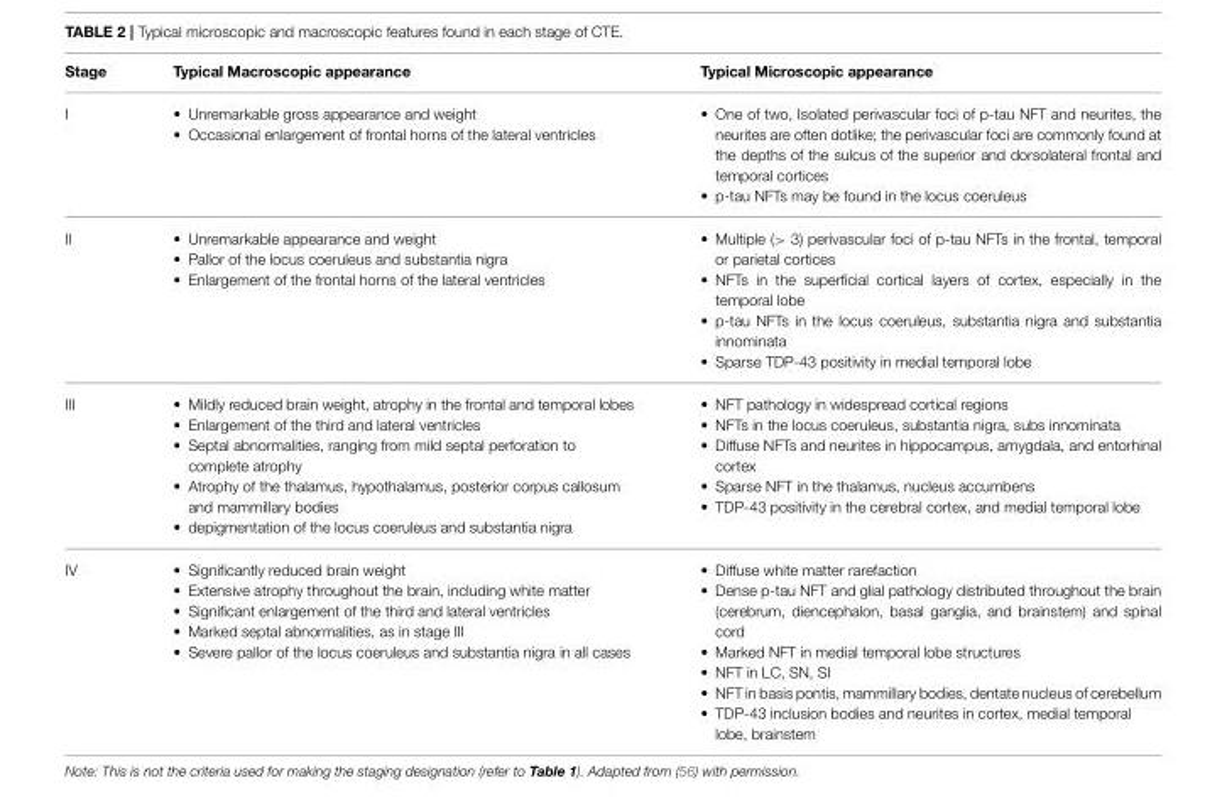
<table><thead><tr><td>Stage</td><td>Typical Macroscopic appearance</td><td>Typical Microscopic appearance</td></tr></thead><tbody><tr><td>I</td><td>• Unremarkable gross appearance and weight • Occasional enlargement of frontal horns of the lateral ventricles</td><td>• One of two, Isolated perivascular foci of p-tau NFT and neurites, the neurites are often dotlike; the perivascular foci are commonly found at the depths of the sulcus of the superior and dorsolateral frontal and temporal cortices • p-tau NFTs may be found in the locus coeruleus</td></tr><tr><td>II</td><td>• Unremarkable appearance and weight • Pallor of the locus coeruleus and substantia nigra • Enlargement of the frontal horns of the lateral ventricles</td><td>• Multiple (&gt; 3) perivascular foci of p-tau NFTs in the frontal, temporal or parietal cortices • NFTs in the superficial cortical layers of cortex, especially in the temporal lobe • p-tau NFTs in the locus coeruleus, substantia nigra and substantia innominata • Sparse TDP-43 positivity in medial temporal lobe</td></tr><tr><td>III</td><td>• Mildly reduced brain weight, atrophy in the frontal and temporal lobes • Enlargement of the third and lateral ventricles • Septal abnormalities, ranging from mild septal perforation to complete atrophy • Atrophy of the thalamus, hypothalamus, posterior corpus callosum and mammillary bodies • depigmentation of the locus coeruleus and substantia nigra</td><td>• NFT pathology in widespread cortical regions • NFTs in the locus coeruleus, substantia nigra, subs innominata • Diffuse NFTs and neurites in hippocampus, amygdala, and entorhinal cortex • Sparse NFT in the thalamus, nucleus accumbens • TDP-43 positivity in the cerebral cortex, and medial temporal lobe</td></tr><tr><td>IV</td><td>• Significantly reduced brain weight • Extensive atrophy throughout the brain, including white matter • Significant enlargement of the third and lateral ventricles • Marked septal abnormalities, as in stage III • Severe pallor of the locus coeruleus and substantia nigra in all cases</td><td>• Diffuse white matter rarefaction • Dense p-tau NFT and glial pathology distributed throughout the brain (cerebrum, diencephalon, basal ganglia, and brainstem) and spinal cord • Marked NFT in medial temporal lobe structures • NFT in LC, SN, SI • NFT in basis pontis, mammillary bodies, dentate nucleus of cerebellum • TDP-43 inclusion bodies and neurites in cortex, medial temporal lobe, brainstem</td></tr></tbody></table>